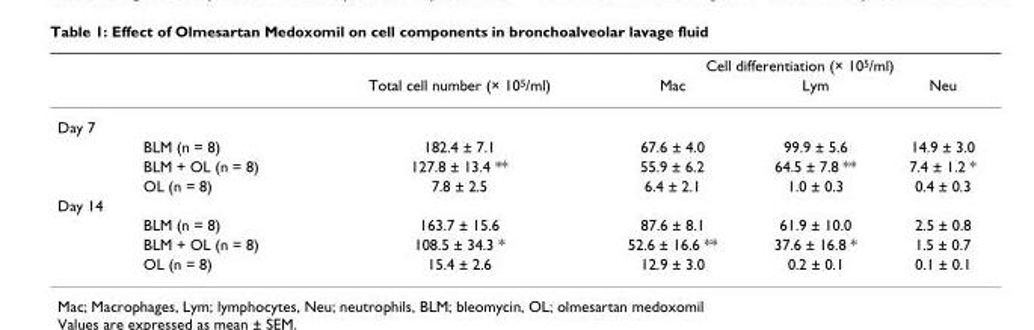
<table><thead><tr><td rowspan="2"></td><td rowspan="2"></td><td rowspan="2">Total cell number (× 10<sup>5</sup>/ml)</td><td colspan="3">Cell differentiation (× 10<sup>5</sup>/ml)</td></tr><tr><td>Mac</td><td>Lym</td><td>Neu</td></tr></thead><tbody><tr><td colspan="6">Day 7</td></tr><tr><td></td><td>BLM (n = 8)</td><td>182.4 ± 7.1</td><td>67.6 ± 4.0</td><td>99.9 ± 5.6</td><td>14.9 ± 3.0</td></tr><tr><td></td><td>BLM + OL (n = 8)</td><td>127.8 ± 13.4 **</td><td>55.9 ± 6.2</td><td>64.5 ± 7.8 **</td><td>7.4 ± 1.2 *</td></tr><tr><td></td><td>OL (n = 8)</td><td>7.8 ± 2.5</td><td>6.4 ± 2.1</td><td>1.0 ± 0.3</td><td>0.4 ± 0.3</td></tr><tr><td colspan="6">Day 14</td></tr><tr><td></td><td>BLM (n = 8)</td><td>163.7 ± 15.6</td><td>87.6 ± 8.1</td><td>61.9 ± 10.0</td><td>2.5 ± 0.8</td></tr><tr><td></td><td>BLM + OL (n = 8)</td><td>108.5 ± 34.3 *</td><td>52.6 ± 16.6 **</td><td>37.6 ± 16.8 *</td><td>1.5 ± 0.7</td></tr><tr><td></td><td>OL (n = 8)</td><td>15.4 ± 2.6</td><td>12.9 ± 3.0</td><td>0.2 ± 0.1</td><td>0.1 ± 0.1</td></tr></tbody></table>